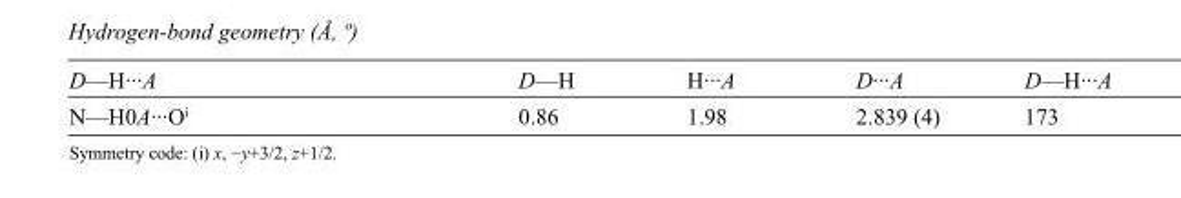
<table><tbody><tr><td>D—H···A</td><td>D—H</td><td>H···A</td><td>D···A</td><td>D—H···A</td></tr><tr><td>N—H0A···O<sup>i</sup></td><td>0.86</td><td>1.98</td><td>2.839 (4)</td><td>173</td></tr></tbody></table>